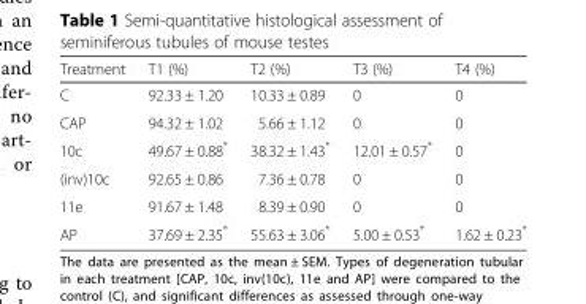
<table><thead><tr><td>Treatment</td><td>T1 (%)</td><td>T2 (%)</td><td>T3 (%)</td><td>T4 (%)</td></tr></thead><tbody><tr><td>C</td><td>92.33 ± 1.20</td><td>10.33 ± 0.89</td><td>0</td><td>0</td></tr><tr><td>CAP</td><td>94.32 ± 1.02</td><td>5.66 ± 1.12</td><td>0</td><td>0</td></tr><tr><td>10c</td><td>49.67 ± 0.88*</td><td>38.32 ± 1.43*</td><td>12.01 ± 0.57*</td><td>0</td></tr><tr><td>(inv)10c</td><td>92.65 ± 0.86</td><td>7.36 ± 0.78</td><td>0</td><td>0</td></tr><tr><td>11e</td><td>91.67 ± 1.48</td><td>8.39 ± 0.90</td><td>0</td><td>0</td></tr><tr><td>AP</td><td>37.69 ± 2.35*</td><td>55.63 ± 3.06*</td><td>5.00 ± 0.53*</td><td>1.62 ± 0.23*</td></tr></tbody></table>